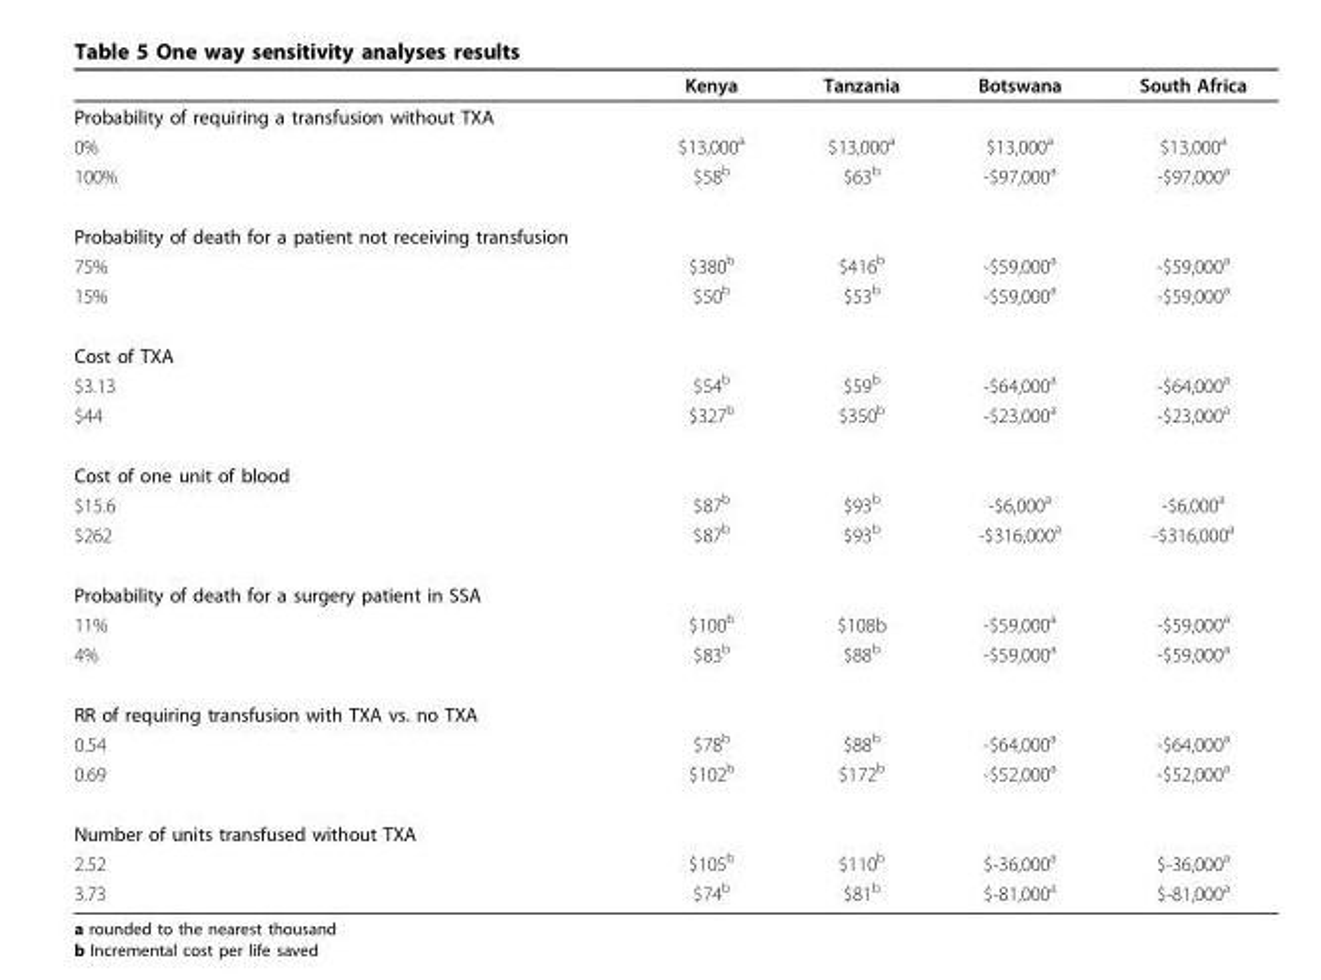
<table><thead><tr><td></td><td>Kenya</td><td>Tanzania</td><td>Botswana</td><td>South Africa</td></tr></thead><tbody><tr><td colspan="5">Probability of requiring a transfusion without TXA</td></tr><tr><td>0%</td><td>$13,000<sup>a</sup></td><td>$13,000<sup>a</sup></td><td>$13,000<sup>a</sup></td><td>$13,000<sup>a</sup></td></tr><tr><td>100%</td><td>$58<sup>b</sup></td><td>$63<sup>b</sup></td><td>-$97,000<sup>a</sup></td><td>-$97,000<sup>a</sup></td></tr><tr><td colspan="5">Probability of death for a patient not receiving transfusion</td></tr><tr><td>75%</td><td>$380<sup>b</sup></td><td>$416<sup>b</sup></td><td>-$59,000<sup>a</sup></td><td>-$59,000<sup>a</sup></td></tr><tr><td>15%</td><td>$50<sup>b</sup></td><td>$53<sup>b</sup></td><td>-$59,000<sup>a</sup></td><td>-$59,000<sup>a</sup></td></tr><tr><td colspan="5">Cost of TXA</td></tr><tr><td>$3.13</td><td>$54<sup>b</sup></td><td>$59<sup>b</sup></td><td>-$64,000<sup>a</sup></td><td>-$64,000<sup>a</sup></td></tr><tr><td>$44</td><td>$327<sup>b</sup></td><td>$350<sup>b</sup></td><td>-$23,000<sup>a</sup></td><td>-$23,000<sup>a</sup></td></tr><tr><td colspan="5">Cost of one unit of blood</td></tr><tr><td>$15.6</td><td>$87<sup>b</sup></td><td>$93<sup>b</sup></td><td>-$6,000<sup>a</sup></td><td>-$6,000<sup>a</sup></td></tr><tr><td>$262</td><td>$87<sup>b</sup></td><td>$93<sup>b</sup></td><td>-$316,000<sup>a</sup></td><td>-$316,000<sup>a</sup></td></tr><tr><td colspan="5">Probability of death for a surgery patient in SSA</td></tr><tr><td>11%</td><td>$100<sup>b</sup></td><td>$108b</td><td>-$59,000<sup>a</sup></td><td>-$59,000<sup>a</sup></td></tr><tr><td>4%</td><td>$83<sup>b</sup></td><td>$88<sup>b</sup></td><td>-$59,000<sup>a</sup></td><td>-$59,000<sup>a</sup></td></tr><tr><td colspan="5">RR of requiring transfusion with TXA vs. no TXA</td></tr><tr><td>0.54</td><td>$78<sup>b</sup></td><td>$88<sup>b</sup></td><td>-$64,000<sup>a</sup></td><td>-$64,000<sup>a</sup></td></tr><tr><td>0.69</td><td>$102<sup>b</sup></td><td>$172<sup>b</sup></td><td>-$52,000<sup>a</sup></td><td>-$52,000<sup>a</sup></td></tr><tr><td colspan="5">Number of units transfused without TXA</td></tr><tr><td>2.52</td><td>$105<sup>b</sup></td><td>$110<sup>b</sup></td><td>$-36,000<sup>a</sup></td><td>$-36,000<sup>a</sup></td></tr><tr><td>3.73</td><td>$74<sup>b</sup></td><td>$81<sup>b</sup></td><td>$-81,000<sup>a</sup></td><td>$-81,000<sup>a</sup></td></tr></tbody></table>